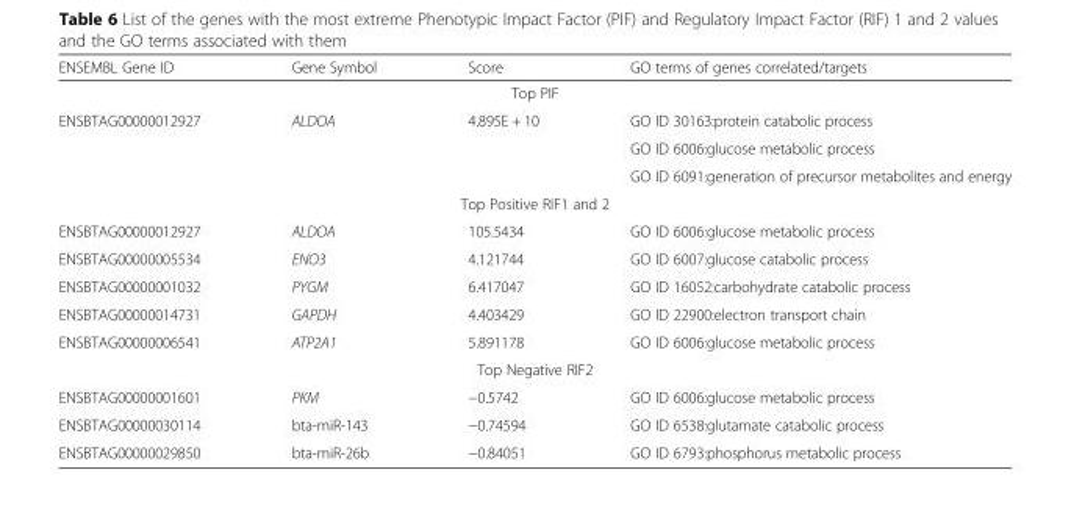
<table><thead><tr><td>ENSEMBL Gene ID</td><td>Gene Symbol</td><td>Score</td><td>GO terms of genes correlated/targets</td></tr></thead><tbody><tr><td colspan="4">Top PIF</td></tr><tr><td rowspan="3">ENSBTAG00000012927</td><td>ALDOA</td><td>4.895E + 10</td><td>GO ID 30163:protein catabolic process</td></tr><tr><td></td><td></td><td>GO ID 6006:glucose metabolic process</td></tr><tr><td></td><td></td><td>GO ID 6091:generation of precursor metabolites and energy</td></tr><tr><td colspan="4">Top Positive RIF1 and 2</td></tr><tr><td>ENSBTAG00000012927</td><td>ALDOA</td><td>105.5434</td><td>GO ID 6006:glucose metabolic process</td></tr><tr><td>ENSBTAG00000005534</td><td>ENO3</td><td>4.121744</td><td>GO ID 6007:glucose catabolic process</td></tr><tr><td>ENSBTAG00000001032</td><td>PYGM</td><td>6.417047</td><td>GO ID 16052:carbohydrate catabolic process</td></tr><tr><td>ENSBTAG00000014731</td><td>GAPDH</td><td>4.403429</td><td>GO ID 22900:electron transport chain</td></tr><tr><td>ENSBTAG00000006541</td><td>ATP2A1</td><td>5.891178</td><td>GO ID 6006:glucose metabolic process</td></tr><tr><td colspan="4">Top Negative RIF2</td></tr><tr><td>ENSBTAG00000001601</td><td>PKM</td><td>−0.5742</td><td>GO ID 6006:glucose metabolic process</td></tr><tr><td>ENSBTAG00000030114</td><td>bta-miR-143</td><td>−0.74594</td><td>GO ID 6538:glutamate catabolic process</td></tr><tr><td>ENSBTAG00000029850</td><td>bta-miR-26b</td><td>−0.84051</td><td>GO ID 6793:phosphorus metabolic process</td></tr></tbody></table>